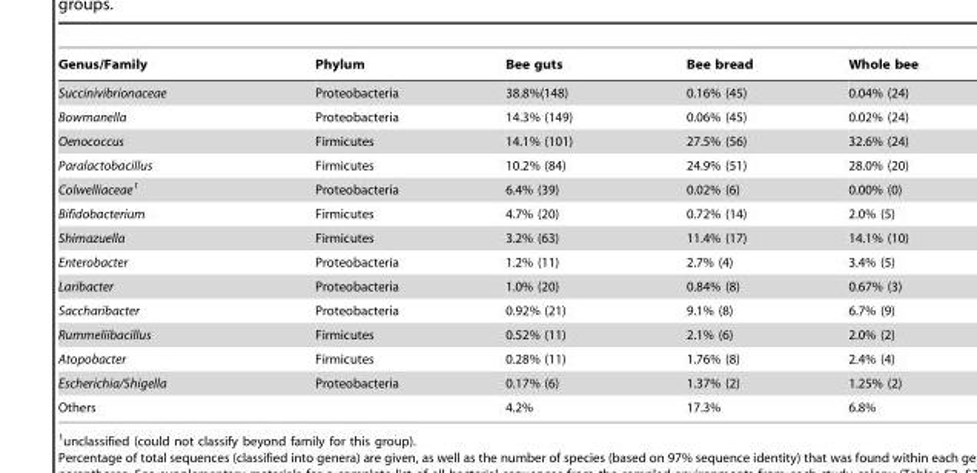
<table><thead><tr><td>Genus/Family</td><td>Phylum</td><td>Bee guts</td><td>Bee bread</td><td>Whole bee</td></tr></thead><tbody><tr><td>Succinivibrionaceae</td><td>Proteobacteria</td><td>38.8%(148)</td><td>0.16% (45)</td><td>0.04% (24)</td></tr><tr><td>Bowmanella</td><td>Proteobacteria</td><td>14.3% (149)</td><td>0.06% (45)</td><td>0.02% (24)</td></tr><tr><td>Oenococcus</td><td>Firmicutes</td><td>14.1% (101)</td><td>27.5% (56)</td><td>32.6% (24)</td></tr><tr><td>Paralactobacillus</td><td>Firmicutes</td><td>10.2% (84)</td><td>24.9% (51)</td><td>28.0% (20)</td></tr><tr><td>Colwelliaceae1</td><td>Proteobacteria</td><td>6.4% (39)</td><td>0.02% (6)</td><td>0.00% (0)</td></tr><tr><td>Bifidobacterium</td><td>Firmicutes</td><td>4.7% (20)</td><td>0.72% (14)</td><td>2.0% (5)</td></tr><tr><td>Shimazuella</td><td>Firmicutes</td><td>3.2% (63)</td><td>11.4% (17)</td><td>14.1% (10)</td></tr><tr><td>Enterobacter</td><td>Proteobacteria</td><td>1.2% (11)</td><td>2.7% (4)</td><td>3.4% (5)</td></tr><tr><td>Laribacter</td><td>Proteobacteria</td><td>1.0% (20)</td><td>0.84% (8)</td><td>0.67% (3)</td></tr><tr><td>Saccharibacter</td><td>Proteobacteria</td><td>0.92% (21)</td><td>9.1% (8)</td><td>6.7% (9)</td></tr><tr><td>Rummeliibacillus</td><td>Firmicutes</td><td>0.52% (11)</td><td>2.1% (6)</td><td>2.0% (2)</td></tr><tr><td>Atopobacter</td><td>Firmicutes</td><td>0.28% (11)</td><td>1.76% (8)</td><td>2.4% (4)</td></tr><tr><td>Escherichia/Shigella</td><td>Proteobacteria</td><td>0.17% (6)</td><td>1.37% (2)</td><td>1.25% (2)</td></tr><tr><td>Others</td><td></td><td>4.2%</td><td>17.3%</td><td>6.8%</td></tr></tbody></table>